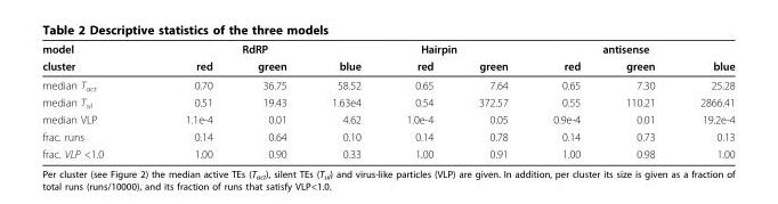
<table><thead><tr><td rowspan="2">model cluster</td><td colspan="3">RdRP</td><td colspan="2">Hairpin</td><td colspan="3">antisense</td></tr><tr><td>red</td><td>green</td><td>blue</td><td>red</td><td>green</td><td>red</td><td>green</td><td>blue</td></tr></thead><tbody><tr><td>median T<sub>act</sub></td><td>0.70</td><td>36.75</td><td>58.52</td><td>0.65</td><td>7.64</td><td>0.65</td><td>7.30</td><td>25.28</td></tr><tr><td>median T<sub>sil</sub></td><td>0.51</td><td>19.43</td><td>1.63e4</td><td>0.54</td><td>372.57</td><td>0.55</td><td>110.21</td><td>2866.41</td></tr><tr><td>median VLP</td><td>1.1e-4</td><td>0.01</td><td>4.62</td><td>1.0e-4</td><td>0.05</td><td>0.9e-4</td><td>0.01</td><td>19.2e-4</td></tr><tr><td>frac. runs</td><td>0.14</td><td>0.64</td><td>0.10</td><td>0.14</td><td>0.78</td><td>0.14</td><td>0.73</td><td>0.13</td></tr><tr><td>frac. VLP &lt;1.0</td><td>1.00</td><td>0.90</td><td>0.33</td><td>1.00</td><td>0.91</td><td>1.00</td><td>0.98</td><td>1.00</td></tr></tbody></table>